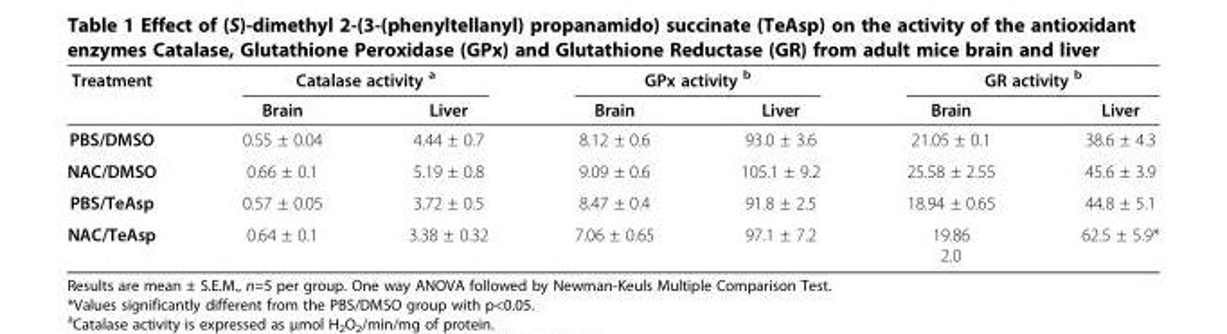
<table><thead><tr><td rowspan="2">Treatment</td><td colspan="2">Catalase activity <sup>a</sup></td><td colspan="2">GPx activity <sup>b</sup></td><td colspan="2">GR activity <sup>b</sup></td></tr><tr><td>Brain</td><td>Liver</td><td>Brain</td><td>Liver</td><td>Brain</td><td>Liver</td></tr></thead><tbody><tr><td>PBS/DMSO</td><td>0.55 ± 0.04</td><td>4.44 ± 0.7</td><td>8.12 ± 0.6</td><td>93.0 ± 3.6</td><td>21.05 ± 0.1</td><td>38.6 ± 4.3</td></tr><tr><td>NAC/DMSO</td><td>0.66 ± 0.1</td><td>5.19 ± 0.8</td><td>9.09 ± 0.6</td><td>105.1 ± 9.2</td><td>25.58 ± 2.55</td><td>45.6 ± 3.9</td></tr><tr><td>PBS/TeAsp</td><td>0.57 ± 0.05</td><td>3.72 ± 0.5</td><td>8.47 ± 0.4</td><td>91.8 ± 2.5</td><td>18.94 ± 0.65</td><td>44.8 ± 5.1</td></tr><tr><td>NAC/TeAsp</td><td>0.64 ± 0.1</td><td>3.38 ± 0.32</td><td>7.06 ± 0.65</td><td>97.1 ± 7.2</td><td>19.86 2.0</td><td>62.5 ± 5.9*</td></tr></tbody></table>